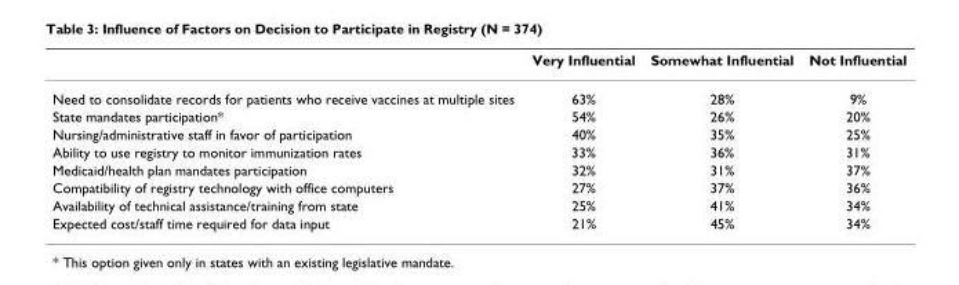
<table><thead><tr><td></td><td>Very Influential</td><td>Somewhat Influential</td><td>Not Influential</td></tr></thead><tbody><tr><td>Need to consolidate records for patients who receive vaccines at multiple sites</td><td>63%</td><td>28%</td><td>9%</td></tr><tr><td>State mandates participation*</td><td>54%</td><td>26%</td><td>20%</td></tr><tr><td>Nursing/administrative staff in favor of participation</td><td>40%</td><td>35%</td><td>25%</td></tr><tr><td>Ability to use registry to monitor immunization rates</td><td>33%</td><td>36%</td><td>31%</td></tr><tr><td>Medicaid/health plan mandates participation</td><td>32%</td><td>31%</td><td>37%</td></tr><tr><td>Compatibility of registry technology with office computers</td><td>27%</td><td>37%</td><td>36%</td></tr><tr><td>Availability of technical assistance/training from state</td><td>25%</td><td>41%</td><td>34%</td></tr><tr><td>Expected cost/staff time required for data input</td><td>21%</td><td>45%</td><td>34%</td></tr></tbody></table>